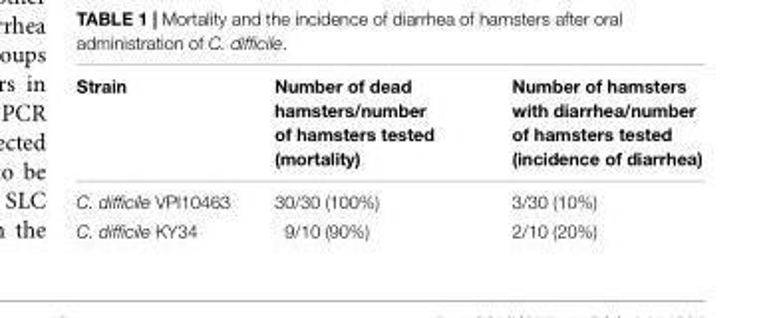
<table><thead><tr><td>Strain</td><td>Number of dead hamsters/number of hamsters tested (mortality)</td><td>Number of hamsters with diarrhea/number of hamsters tested (incidence of diarrhea)</td></tr></thead><tbody><tr><td>C. difficile VPI10463</td><td>30/30 (100%)</td><td>3/30 (10%)</td></tr><tr><td>C. difficile KY34</td><td>9/10 (90%)</td><td>2/10 (20%)</td></tr></tbody></table>